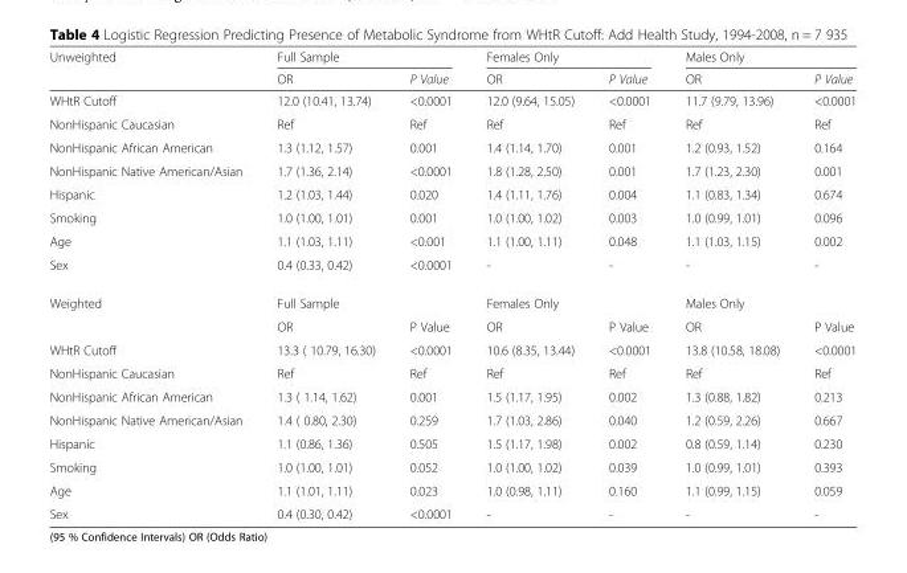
<table><thead><tr><td rowspan="2">Unweighted</td><td colspan="2">Full Sample</td><td colspan="2">Females Only</td><td colspan="2">Males Only</td></tr><tr><td>OR</td><td>P Value</td><td>OR</td><td>P Value</td><td>OR</td><td>P Value</td></tr></thead><tbody><tr><td>WHtR Cutoff</td><td>12.0 (10.41, 13.74)</td><td>&lt;0.0001</td><td>12.0 (9.64, 15.05)</td><td>&lt;0.0001</td><td>11.7 (9.79, 13.96)</td><td>&lt;0.0001</td></tr><tr><td>NonHispanic Caucasian</td><td>Ref</td><td>Ref</td><td>Ref</td><td>Ref</td><td>Ref</td><td>Ref</td></tr><tr><td>NonHispanic African American</td><td>1.3 (1.12, 1.57)</td><td>0.001</td><td>1.4 (1.14, 1.70)</td><td>0.001</td><td>1.2 (0.93, 1.52)</td><td>0.164</td></tr><tr><td>NonHispanic Native American/Asian</td><td>1.7 (1.36, 2.14)</td><td>&lt;0.0001</td><td>1.8 (1.28, 2.50)</td><td>0.001</td><td>1.7 (1.23, 2.30)</td><td>0.001</td></tr><tr><td>Hispanic</td><td>1.2 (1.03, 1.44)</td><td>0.020</td><td>1.4 (1.11, 1.76)</td><td>0.004</td><td>1.1 (0.83, 1.34)</td><td>0.674</td></tr><tr><td>Smoking</td><td>1.0 (1.00, 1.01)</td><td>0.001</td><td>1.0 (1.00, 1.02)</td><td>0.003</td><td>1.0 (0.99, 1.01)</td><td>0.096</td></tr><tr><td>Age</td><td>1.1 (1.03, 1.11)</td><td>&lt;0.001</td><td>1.1 (1.00, 1.11)</td><td>0.048</td><td>1.1 (1.03, 1.15)</td><td>0.002</td></tr><tr><td>Sex</td><td>0.4 (0.33, 0.42)</td><td>&lt;0.0001</td><td>-</td><td>-</td><td>-</td><td>-</td></tr><tr><td rowspan="2">Weighted</td><td colspan="2">Full Sample</td><td colspan="2">Females Only</td><td colspan="2">Males Only</td></tr><tr><td>OR</td><td>P Value</td><td>OR</td><td>P Value</td><td>OR</td><td>P Value</td></tr><tr><td>WHtR Cutoff</td><td>13.3 ( 10.79, 16.30)</td><td>&lt;0.0001</td><td>10.6 (8.35, 13.44)</td><td>&lt;0.0001</td><td>13.8 (10.58, 18.08)</td><td>&lt;0.0001</td></tr><tr><td>NonHispanic Caucasian</td><td>Ref</td><td>Ref</td><td>Ref</td><td>Ref</td><td>Ref</td><td>Ref</td></tr><tr><td>NonHispanic African American</td><td>1.3 ( 1.14, 1.62)</td><td>0.001</td><td>1.5 (1.17, 1.95)</td><td>0.002</td><td>1.3 (0.88, 1.82)</td><td>0.213</td></tr><tr><td>NonHispanic Native American/Asian</td><td>1.4 ( 0.80, 2.30)</td><td>0.259</td><td>1.7 (1.03, 2.86)</td><td>0.040</td><td>1.2 (0.59, 2.26)</td><td>0.667</td></tr><tr><td>Hispanic</td><td>1.1 (0.86, 1.36)</td><td>0.505</td><td>1.5 (1.17, 1.98)</td><td>0.002</td><td>0.8 (0.59, 1.14)</td><td>0.230</td></tr><tr><td>Smoking</td><td>1.0 (1.00, 1.01)</td><td>0.052</td><td>1.0 (1.00, 1.02)</td><td>0.039</td><td>1.0 (0.99, 1.01)</td><td>0.393</td></tr><tr><td>Age</td><td>1.1 (1.01, 1.11)</td><td>0.023</td><td>1.0 (0.98, 1.11)</td><td>0.160</td><td>1.1 (0.99, 1.15)</td><td>0.059</td></tr><tr><td>Sex</td><td>0.4 (0.30, 0.42)</td><td>&lt;0.0001</td><td>-</td><td>-</td><td>-</td><td>-</td></tr></tbody></table>